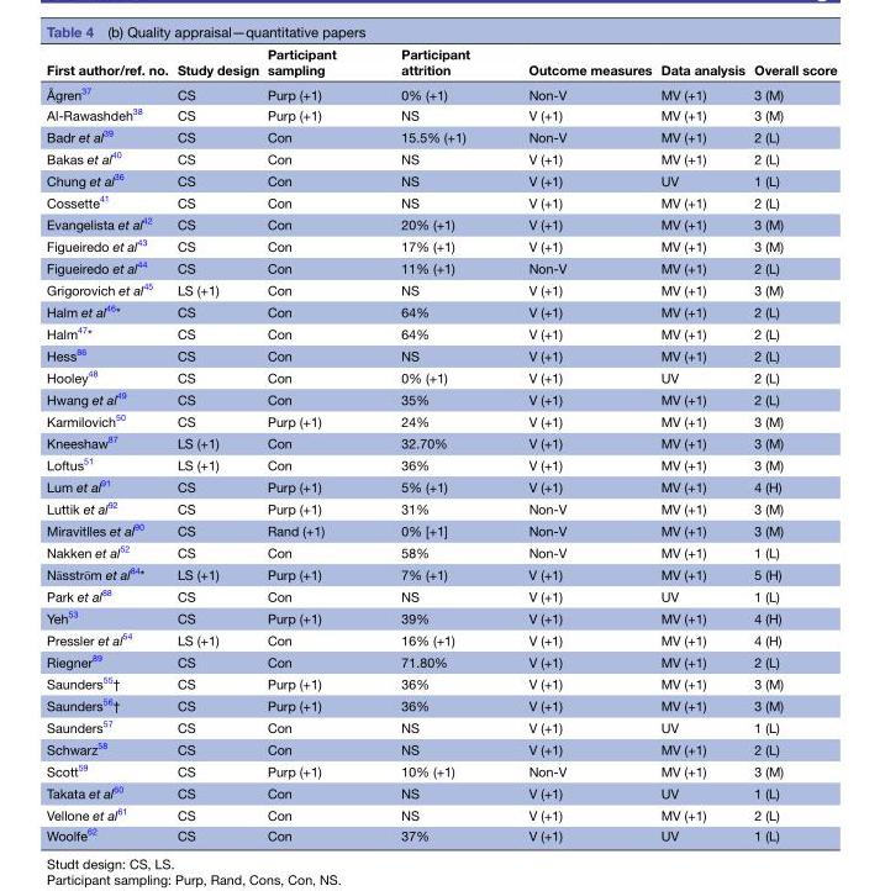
<table><thead><tr><td>First author/ref. no.</td><td>Study design</td><td>Participant sampling</td><td>Participant attrition</td><td>Outcome measures</td><td>Data analysis</td><td>Overall score</td></tr></thead><tbody><tr><td>Ågren<sup>37</sup></td><td>CS</td><td>Purp (+1)</td><td>0% (+1)</td><td>Non-V</td><td>MV (+1)</td><td>3 (M)</td></tr><tr><td>Al-Rawashdeh<sup>38</sup></td><td>CS</td><td>Purp (+1)</td><td>NS</td><td>V (+1)</td><td>MV (+1)</td><td>3 (M)</td></tr><tr><td>Badr et al<sup>39</sup></td><td>CS</td><td>Con</td><td>15.5% (+1)</td><td>Non-V</td><td>MV (+1)</td><td>2 (L)</td></tr><tr><td>Bakas et al<sup>40</sup></td><td>CS</td><td>Con</td><td>NS</td><td>V (+1)</td><td>MV (+1)</td><td>2 (L)</td></tr><tr><td>Chung et al<sup>36</sup></td><td>CS</td><td>Con</td><td>NS</td><td>V (+1)</td><td>UV</td><td>1 (L)</td></tr><tr><td>Cossette<sup>41</sup></td><td>CS</td><td>Con</td><td>NS</td><td>V (+1)</td><td>MV (+1)</td><td>2 (L)</td></tr><tr><td>Evangelista et al<sup>42</sup></td><td>CS</td><td>Con</td><td>20% (+1)</td><td>V (+1)</td><td>MV (+1)</td><td>3 (M)</td></tr><tr><td>Figueiredo et al<sup>43</sup></td><td>CS</td><td>Con</td><td>17% (+1)</td><td>V (+1)</td><td>MV (+1)</td><td>3 (M)</td></tr><tr><td>Figueiredo et al<sup>44</sup></td><td>CS</td><td>Con</td><td>11% (+1)</td><td>Non-V</td><td>MV (+1)</td><td>2 (L)</td></tr><tr><td>Grigorovich et al<sup>45</sup></td><td>LS (+1)</td><td>Con</td><td>NS</td><td>V (+1)</td><td>MV (+1)</td><td>3 (M)</td></tr><tr><td>Halm et al<sup>46</sup>*</td><td>CS</td><td>Con</td><td>64%</td><td>V (+1)</td><td>MV (+1)</td><td>2 (L)</td></tr><tr><td>Halm<sup>47</sup>*</td><td>CS</td><td>Con</td><td>64%</td><td>V (+1)</td><td>MV (+1)</td><td>2 (L)</td></tr><tr><td>Hess<sup>86</sup></td><td>CS</td><td>Con</td><td>NS</td><td>V (+1)</td><td>MV (+1)</td><td>2 (L)</td></tr><tr><td>Hooley<sup>48</sup></td><td>CS</td><td>Con</td><td>0% (+1)</td><td>V (+1)</td><td>UV</td><td>2 (L)</td></tr><tr><td>Hwang et al<sup>49</sup></td><td>CS</td><td>Con</td><td>35%</td><td>V (+1)</td><td>MV (+1)</td><td>2 (L)</td></tr><tr><td>Karmilovich<sup>50</sup></td><td>CS</td><td>Purp (+1)</td><td>24%</td><td>V (+1)</td><td>MV (+1)</td><td>3 (M)</td></tr><tr><td>Kneeshaw<sup>87</sup></td><td>LS (+1)</td><td>Con</td><td>32.70%</td><td>V (+1)</td><td>MV (+1)</td><td>3 (M)</td></tr><tr><td>Loftus<sup>51</sup></td><td>LS (+1)</td><td>Con</td><td>36%</td><td>V (+1)</td><td>MV (+1)</td><td>3 (M)</td></tr><tr><td>Lum et al<sup>91</sup></td><td>CS</td><td>Purp (+1)</td><td>5% (+1)</td><td>V (+1)</td><td>MV (+1)</td><td>4 (H)</td></tr><tr><td>Luttik et al<sup>92</sup></td><td>CS</td><td>Purp (+1)</td><td>31%</td><td>Non-V</td><td>MV (+1)</td><td>3 (M)</td></tr><tr><td>Miravitlles et al<sup>90</sup></td><td>CS</td><td>Rand (+1)</td><td>0% [+1]</td><td>Non-V</td><td>MV (+1)</td><td>3 (M)</td></tr><tr><td>Nakken et al<sup>52</sup></td><td>CS</td><td>Con</td><td>58%</td><td>Non-V</td><td>MV (+1)</td><td>1 (L)</td></tr><tr><td>Nӓsstrӧm et al<sup>84</sup>*</td><td>LS (+1)</td><td>Purp (+1)</td><td>7% (+1)</td><td>V (+1)</td><td>MV (+1)</td><td>5 (H)</td></tr><tr><td>Park et al<sup>88</sup></td><td>CS</td><td>Con</td><td>NS</td><td>V (+1)</td><td>UV</td><td>1 (L)</td></tr><tr><td>Yeh<sup>53</sup></td><td>CS</td><td>Purp (+1)</td><td>39%</td><td>V (+1)</td><td>MV (+1)</td><td>4 (H)</td></tr><tr><td>Pressler et al<sup>54</sup></td><td>LS (+1)</td><td>Con</td><td>16% (+1)</td><td>V (+1)</td><td>MV (+1)</td><td>4 (H)</td></tr><tr><td>Riegner<sup>89</sup></td><td>CS</td><td>Con</td><td>71.80%</td><td>V (+1)</td><td>MV (+1)</td><td>2 (L)</td></tr><tr><td>Saunders<sup>55</sup>†</td><td>CS</td><td>Purp (+1)</td><td>36%</td><td>V (+1)</td><td>MV (+1)</td><td>3 (M)</td></tr><tr><td>Saunders<sup>56</sup>†</td><td>CS</td><td>Purp (+1)</td><td>36%</td><td>V (+1)</td><td>MV (+1)</td><td>3 (M)</td></tr><tr><td>Saunders<sup>57</sup></td><td>CS</td><td>Con</td><td>NS</td><td>V (+1)</td><td>UV</td><td>1 (L)</td></tr><tr><td>Schwarz<sup>58</sup></td><td>CS</td><td>Con</td><td>NS</td><td>V (+1)</td><td>MV (+1)</td><td>2 (L)</td></tr><tr><td>Scott<sup>59</sup></td><td>CS</td><td>Purp (+1)</td><td>10% (+1)</td><td>Non-V</td><td>MV (+1)</td><td>3 (M)</td></tr><tr><td>Takata et al<sup>60</sup></td><td>CS</td><td>Con</td><td>NS</td><td>V (+1)</td><td>UV</td><td>1 (L)</td></tr><tr><td>Vellone et al<sup>61</sup></td><td>CS</td><td>Con</td><td>NS</td><td>V (+1)</td><td>MV (+1)</td><td>2 (L)</td></tr><tr><td>Woolfe<sup>62</sup></td><td>CS</td><td>Con</td><td>37%</td><td>V (+1)</td><td>UV</td><td>1 (L)</td></tr></tbody></table>